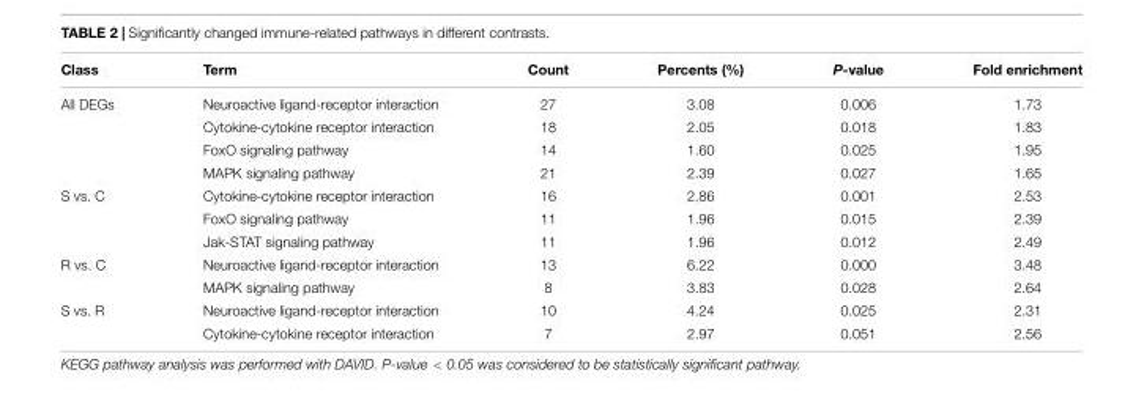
<table><thead><tr><td>Class</td><td>Term</td><td>Count</td><td>Percents (%)</td><td>P-value</td><td>Fold enrichment</td></tr></thead><tbody><tr><td rowspan="4">All DEGs</td><td>Neuroactive ligand-receptor interaction</td><td>27</td><td>3.08</td><td>0.006</td><td>1.73</td></tr><tr><td>Cytokine-cytokine receptor interaction</td><td>18</td><td>2.05</td><td>0.018</td><td>1.83</td></tr><tr><td>FoxO signaling pathway</td><td>14</td><td>1.60</td><td>0.025</td><td>1.95</td></tr><tr><td>MAPK signaling pathway</td><td>21</td><td>2.39</td><td>0.027</td><td>1.65</td></tr><tr><td rowspan="3">S vs. C</td><td>Cytokine-cytokine receptor interaction</td><td>16</td><td>2.86</td><td>0.001</td><td>2.53</td></tr><tr><td>FoxO signaling pathway</td><td>11</td><td>1.96</td><td>0.015</td><td>2.39</td></tr><tr><td>Jak-STAT signaling pathway</td><td>11</td><td>1.96</td><td>0.012</td><td>2.49</td></tr><tr><td rowspan="2">R vs. C</td><td>Neuroactive ligand-receptor interaction</td><td>13</td><td>6.22</td><td>0.000</td><td>3.48</td></tr><tr><td>MAPK signaling pathway</td><td>8</td><td>3.83</td><td>0.028</td><td>2.64</td></tr><tr><td rowspan="2">S vs. R</td><td>Neuroactive ligand-receptor interaction</td><td>10</td><td>4.24</td><td>0.025</td><td>2.31</td></tr><tr><td>Cytokine-cytokine receptor interaction</td><td>7</td><td>2.97</td><td>0.051</td><td>2.56</td></tr></tbody></table>